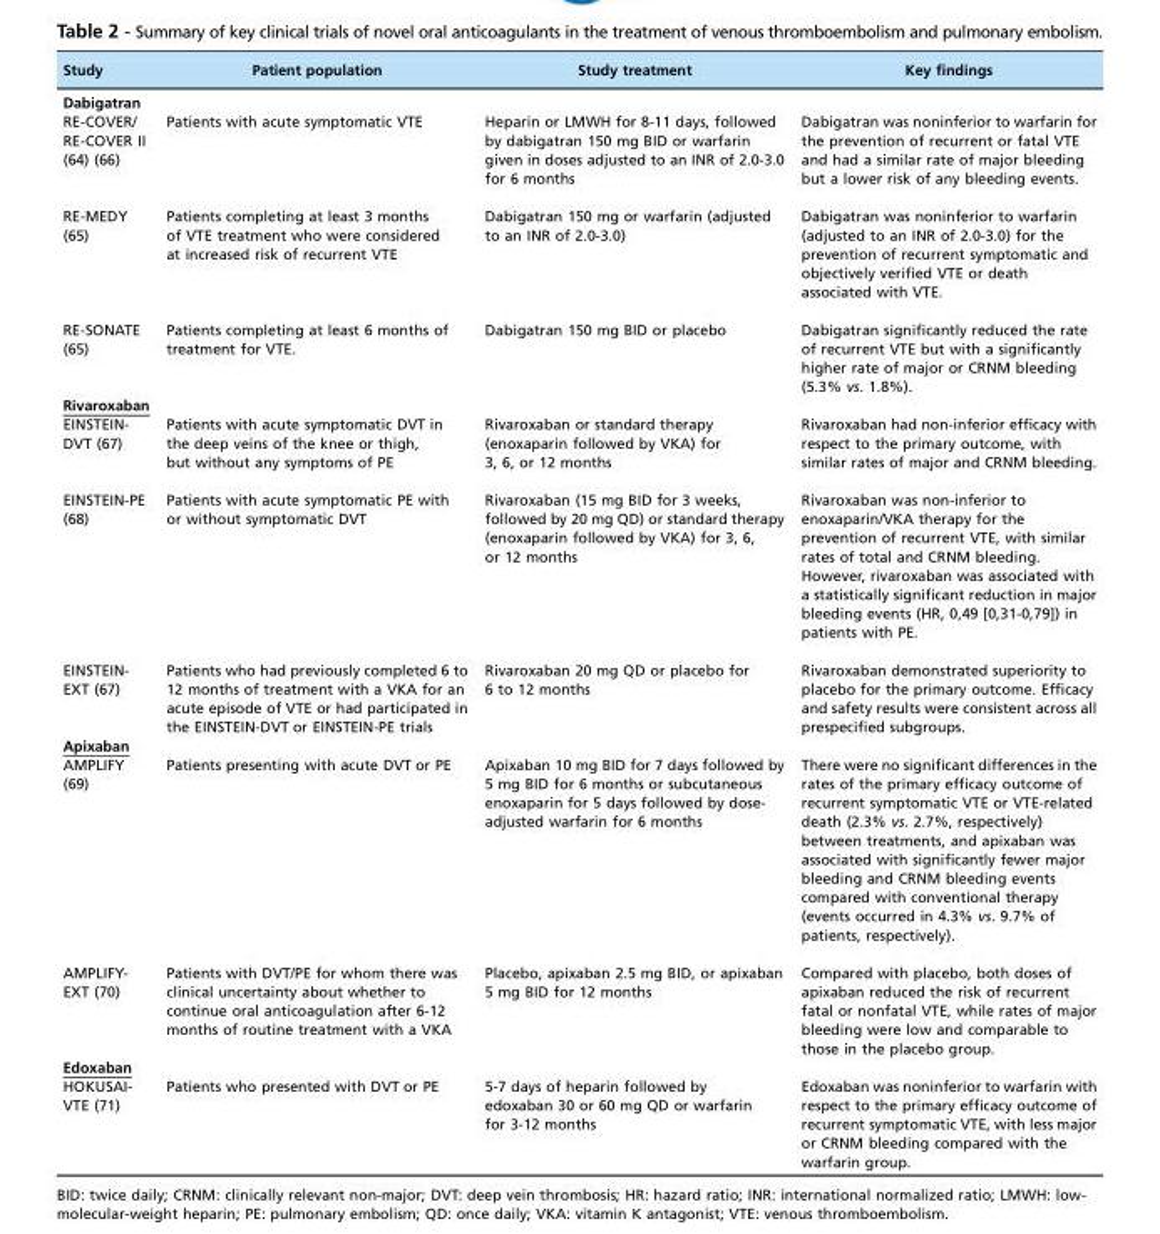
<table><thead><tr><td>Study</td><td>Patient population</td><td>Study treatment</td><td>Key findings</td></tr></thead><tbody><tr><td colspan="4">Dabigatran</td></tr><tr><td>RE-COVER/ RE-COVER II (64) (66)</td><td>Patients with acute symptomatic VTE</td><td>Heparin or LMWH for 8-11 days, followed by dabigatran 150 mg BID or warfarin given in doses adjusted to an INR of 2.0-3.0 for 6 months</td><td>Dabigatran was noninferior to warfarin for the prevention of recurrent or fatal VTE and had a similar rate of major bleeding but a lower risk of any bleeding events.</td></tr><tr><td>RE-MEDY (65)</td><td>Patients completing at least 3 months of VTE treatment who were considered at increased risk of recurrent VTE</td><td>Dabigatran 150 mg or warfarin (adjusted to an INR of 2.0-3.0)</td><td>Dabigatran was noninferior to warfarin (adjusted to an INR of 2.0-3.0) for the prevention of recurrent symptomatic and objectively verified VTE or death associated with VTE.</td></tr><tr><td>RE-SONATE (65)</td><td>Patients completing at least 6 months of treatment for VTE.</td><td>Dabigatran 150 mg BID or placebo</td><td>Dabigatran significantly reduced the rate of recurrent VTE but with a significantly higher rate of major or CRNM bleeding (5.3% vs. 1.8%).</td></tr><tr><td colspan="4">Rivaroxaban</td></tr><tr><td>EINSTEIN- DVT (67)</td><td>Patients with acute symptomatic DVT in the deep veins of the knee or thigh, but without any symptoms of PE</td><td>Rivaroxaban or standard therapy (enoxaparin followed by VKA) for 3, 6, or 12 months</td><td>Rivaroxaban had non-inferior efficacy with respect to the primary outcome, with similar rates of major and CRNM bleeding.</td></tr><tr><td>EINSTEIN-PE (68)</td><td>Patients with acute symptomatic PE with or without symptomatic DVT</td><td>Rivaroxaban (15 mg BID for 3 weeks, followed by 20 mg QD) or standard therapy (enoxaparin followed by VKA) for 3, 6, or 12 months</td><td>Rivaroxaban was non-inferior to enoxaparin/VKA therapy for the prevention of recurrent VTE, with similar rates of total and CRNM bleeding. However, rivaroxaban was associated with a statistically significant reduction in major bleeding events (HR, 0,49 [0,31-0,79]) in patients with PE.</td></tr><tr><td>EINSTEIN- EXT (67)</td><td>Patients who had previously completed 6 to 12 months of treatment with a VKA for an acute episode of VTE or had participated in the EINSTEIN-DVT or EINSTEIN-PE trials</td><td>Rivaroxaban 20 mg QD or placebo for 6 to 12 months</td><td>Rivaroxaban demonstrated superiority to placebo for the primary outcome. Efficacy and safety results were consistent across all prespecified subgroups.</td></tr><tr><td colspan="4">Apixaban</td></tr><tr><td>AMPLIFY (69)</td><td>Patients presenting with acute DVT or PE</td><td>Apixaban 10 mg BID for 7 days followed by 5 mg BID for 6 months or subcutaneous enoxaparin for 5 days followed by dose- adjusted warfarin for 6 months</td><td>There were no significant differences in the rates of the primary efficacy outcome of recurrent symptomatic VTE or VTE-related death (2.3% vs. 2.7%, respectively) between treatments, and apixaban was associated with significantly fewer major bleeding and CRNM bleeding events compared with conventional therapy (events occurred in 4.3% vs. 9.7% of patients, respectively).</td></tr><tr><td>AMPLIFY- EXT (70)</td><td>Patients with DVT/PE for whom there was clinical uncertainty about whether to continue oral anticoagulation after 6-12 months of routine treatment with a VKA</td><td>Placebo, apixaban 2.5 mg BID, or apixaban 5 mg BID for 12 months</td><td>Compared with placebo, both doses of apixaban reduced the risk of recurrent fatal or nonfatal VTE, while rates of major bleeding were low and comparable to those in the placebo group.</td></tr><tr><td colspan="4">Edoxaban</td></tr><tr><td>HOKUSAI- VTE (71)</td><td>Patients who presented with DVT or PE</td><td>5-7 days of heparin followed by edoxaban 30 or 60 mg QD or warfarin for 3-12 months</td><td>Edoxaban was noninferior to warfarin with respect to the primary efficacy outcome of recurrent symptomatic VTE, with less major or CRNM bleeding compared with the warfarin group.</td></tr></tbody></table>